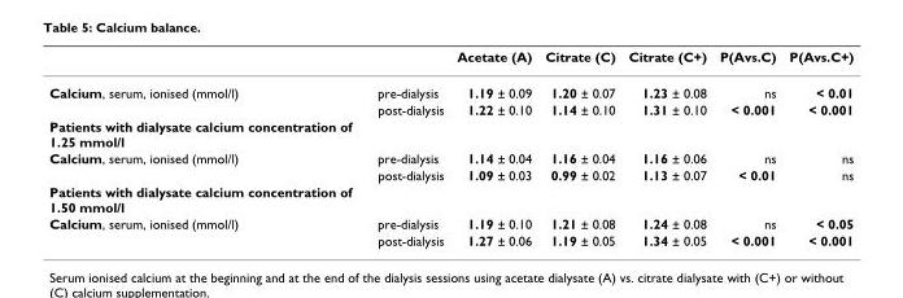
<table><thead><tr><td></td><td></td><td>Acetate (A)</td><td>Citrate (C)</td><td>Citrate (C+)</td><td>P(Avs.C)</td><td>P(Avs.C+)</td></tr></thead><tbody><tr><td rowspan="2">Calcium, serum, ionised (mmol/l)</td><td>pre-dialysis</td><td>1.19 ± 0.09</td><td>1.20 ± 0.07</td><td>1.23 ± 0.08</td><td>ns</td><td>&lt; 0.01</td></tr><tr><td>post-dialysis</td><td>1.22 ± 0.10</td><td>1.14 ± 0.10</td><td>1.31 ± 0.10</td><td>&lt; 0.001</td><td>&lt; 0.001</td></tr><tr><td colspan="7">Patients with dialysate calcium concentration of 1.25 mmol/l</td></tr><tr><td rowspan="2">Calcium, serum, ionised (mmol/l)</td><td>pre-dialysis</td><td>1.14 ± 0.04</td><td>1.16 ± 0.04</td><td>1.16 ± 0.06</td><td>ns</td><td>ns</td></tr><tr><td>post-dialysis</td><td>1.09 ± 0.03</td><td>0.99 ± 0.02</td><td>1.13 ± 0.07</td><td>&lt; 0.01</td><td>ns</td></tr><tr><td colspan="7">Patients with dialysate calcium concentration of 1.50 mmol/l</td></tr><tr><td rowspan="2">Calcium, serum, ionised (mmol/l)</td><td>pre-dialysis</td><td>1.19 ± 0.10</td><td>1.21 ± 0.08</td><td>1.24 ± 0.08</td><td>ns</td><td>&lt; 0.05</td></tr><tr><td>post-dialysis</td><td>1.27 ± 0.06</td><td>1.19 ± 0.05</td><td>1.34 ± 0.05</td><td>&lt; 0.001</td><td>&lt; 0.001</td></tr></tbody></table>